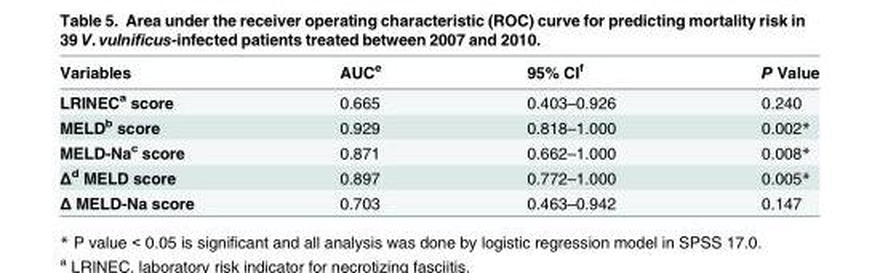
<table><thead><tr><td>Variables</td><td>AUC<sup>e</sup></td><td>95% CI<sup>f</sup></td><td>P Value</td></tr></thead><tbody><tr><td>LRINEC<sup>a</sup> score</td><td>0.665</td><td>0.403–0.926</td><td>0.240</td></tr><tr><td>MELD<sup>b</sup> score</td><td>0.929</td><td>0.818–1.000</td><td>0.002*</td></tr><tr><td>MELD-Na<sup>c</sup> score</td><td>0.871</td><td>0.662–1.000</td><td>0.008*</td></tr><tr><td>Δ<sup>d</sup> MELD score</td><td>0.897</td><td>0.772–1.000</td><td>0.005*</td></tr><tr><td>Δ MELD-Na score</td><td>0.703</td><td>0.463–0.942</td><td>0.147</td></tr></tbody></table>